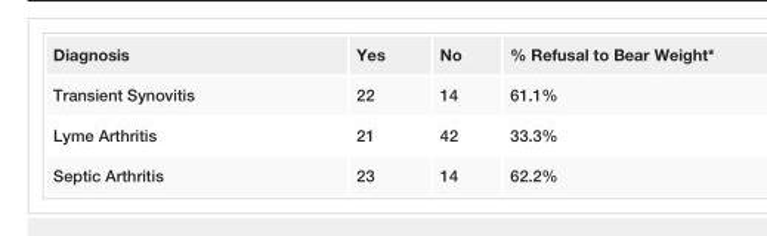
<table><tbody><tr><td>Diagnosis</td><td>Yes</td><td>No</td><td>% Refusal to Bear Weight*</td></tr><tr><td>Transient Synovitis</td><td>22</td><td>14</td><td>61.1%</td></tr><tr><td>Lyme Arthritis</td><td>21</td><td>42</td><td>33.3%</td></tr><tr><td>Septic Arthritis</td><td>23</td><td>14</td><td>62.2%</td></tr></tbody></table>